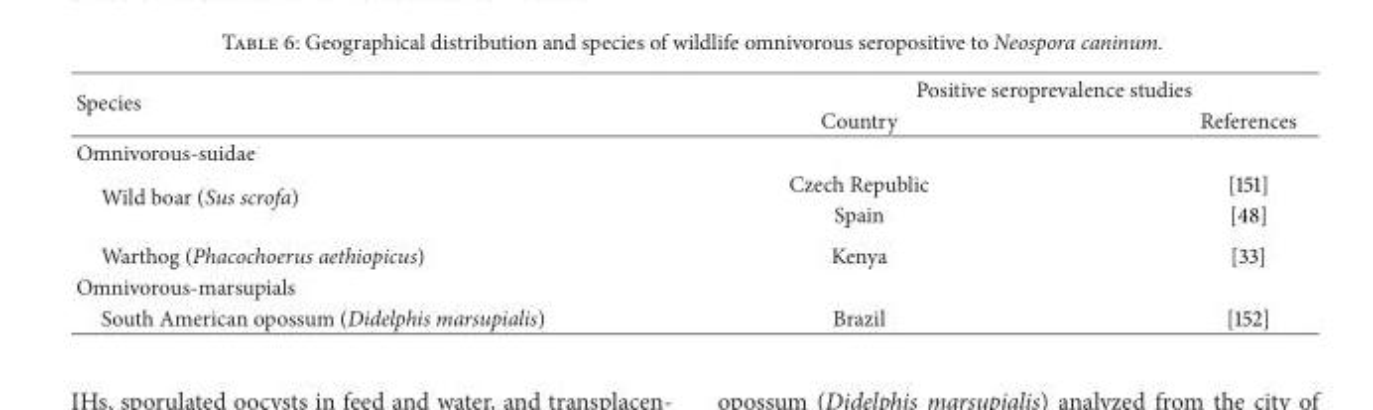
<table><thead><tr><td rowspan="2">Species</td><td colspan="2">Positive seroprevalence studies</td></tr><tr><td>Country</td><td>References</td></tr></thead><tbody><tr><td colspan="3">Omnivorous-suidae</td></tr><tr><td rowspan="2">Wild boar (Sus scrofa)</td><td>Czech Republic</td><td>[151]</td></tr><tr><td>Spain</td><td>[48]</td></tr><tr><td>Warthog (Phacochoerus aethiopicus)</td><td>Kenya</td><td>[33]</td></tr><tr><td colspan="3">Omnivorous-marsupials</td></tr><tr><td>South American opossum (Didelphis marsupialis)</td><td>Brazil</td><td>[152]</td></tr></tbody></table>